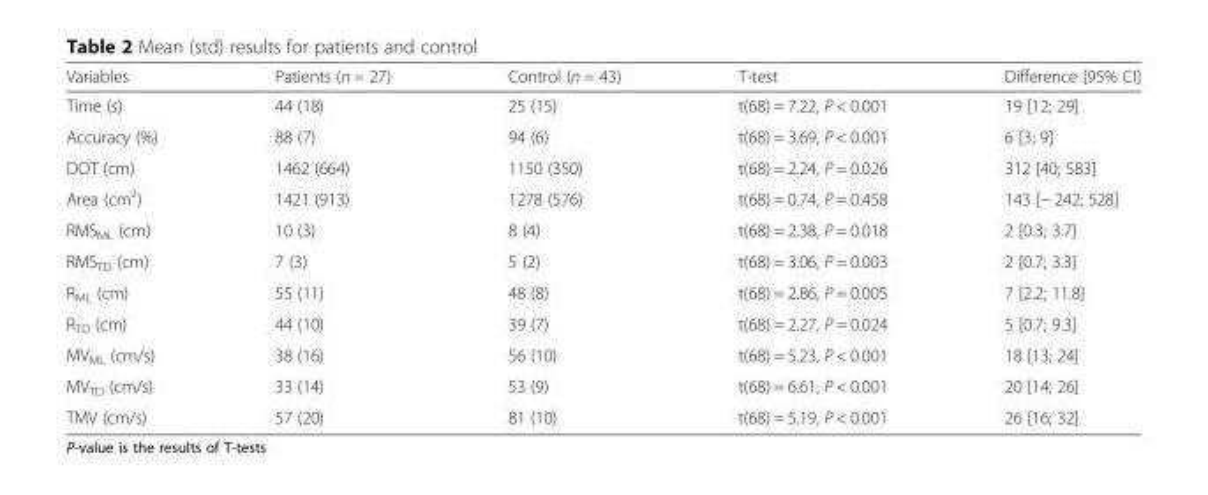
<table><thead><tr><td>Variables</td><td>Patients (n = 27)</td><td>Control (n = 43)</td><td>T-test</td><td>Difference [95% CI]</td></tr></thead><tbody><tr><td>Time (s)</td><td>44 (18)</td><td>25 (15)</td><td>t(68) = 7.22, P &lt; 0.001</td><td>19 [12; 29]</td></tr><tr><td>Accuracy (%)</td><td>88 (7)</td><td>94 (6)</td><td>t(68) = 3.69, P &lt; 0.001</td><td>6 [3; 9]</td></tr><tr><td>DOT (cm)</td><td>1462 (664)</td><td>1150 (350)</td><td>t(68) = 2.24, P = 0.026</td><td>312 [40; 583]</td></tr><tr><td>Area (cm<sup>2</sup>)</td><td>1421 (913)</td><td>1278 (576)</td><td>t(68) = 0.74, P = 0.458</td><td>143 [− 242; 528]</td></tr><tr><td>RMS<sub>ML</sub> (cm)</td><td>10 (3)</td><td>8 (4)</td><td>t(68) = 2.38, P = 0.018</td><td>2 [0.3; 3.7]</td></tr><tr><td>RMS<sub>TD</sub> (cm)</td><td>7 (3)</td><td>5 (2)</td><td>t(68) = 3.06, P = 0.003</td><td>2 [0.7; 3.3]</td></tr><tr><td>R<sub>ML</sub> (cm)</td><td>55 (11)</td><td>48 (8)</td><td>t(68) = 2.86, P = 0.005</td><td>7 [2.2; 11.8]</td></tr><tr><td>R<sub>TD</sub> (cm)</td><td>44 (10)</td><td>39 (7)</td><td>t(68) = 2.27, P = 0.024</td><td>5 [0.7; 9.3]</td></tr><tr><td>MV<sub>ML</sub> (cm/s)</td><td>38 (16)</td><td>56 (10)</td><td>t(68) = 5.23, P &lt; 0.001</td><td>18 [13; 24]</td></tr><tr><td>MV<sub>TD</sub> (cm/s)</td><td>33 (14)</td><td>53 (9)</td><td>t(68) = 6.61, P &lt; 0.001</td><td>20 [14; 26]</td></tr><tr><td>TMV (cm/s)</td><td>57 (20)</td><td>81 (10)</td><td>t(68) = 5.19, P &lt; 0.001</td><td>26 [16; 32]</td></tr></tbody></table>